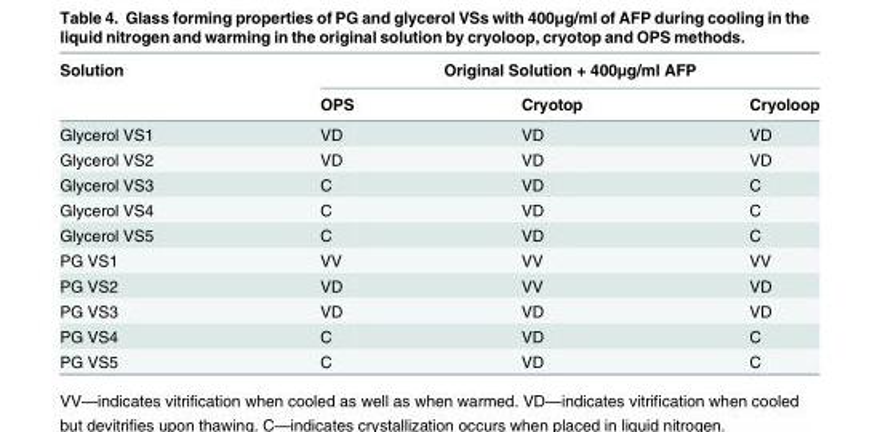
<table><thead><tr><td rowspan="2">Solution</td><td colspan="3">Original Solution + 400μg/ml AFP</td></tr><tr><td>OPS</td><td>Cryotop</td><td>Cryoloop</td></tr></thead><tbody><tr><td>Glycerol VS1</td><td>VD</td><td>VD</td><td>VD</td></tr><tr><td>Glycerol VS2</td><td>VD</td><td>VD</td><td>VD</td></tr><tr><td>Glycerol VS3</td><td>C</td><td>VD</td><td>C</td></tr><tr><td>Glycerol VS4</td><td>C</td><td>VD</td><td>C</td></tr><tr><td>Glycerol VS5</td><td>C</td><td>VD</td><td>C</td></tr><tr><td>PG VS1</td><td>VV</td><td>VV</td><td>VV</td></tr><tr><td>PG VS2</td><td>VD</td><td>VV</td><td>VD</td></tr><tr><td>PG VS3</td><td>VD</td><td>VD</td><td>VD</td></tr><tr><td>PG VS4</td><td>C</td><td>VD</td><td>C</td></tr><tr><td>PG VS5</td><td>C</td><td>VD</td><td>C</td></tr></tbody></table>